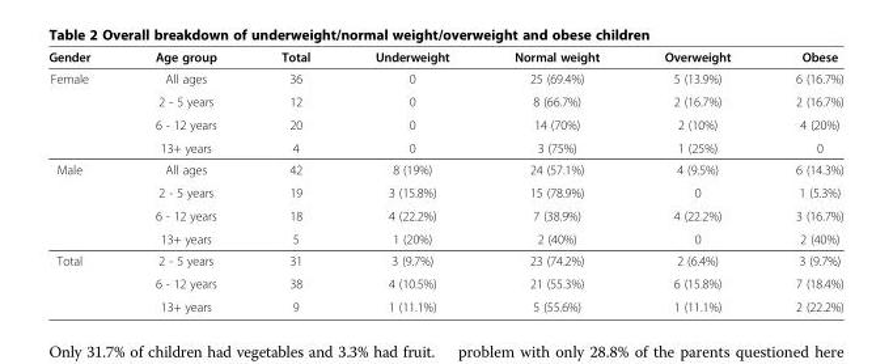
<table><thead><tr><td>Gender</td><td>Age group</td><td>Total</td><td>Underweight</td><td>Normal weight</td><td>Overweight</td><td>Obese</td></tr></thead><tbody><tr><td rowspan="4">Female</td><td>All ages</td><td>36</td><td>0</td><td>25 (69.4%)</td><td>5 (13.9%)</td><td>6 (16.7%)</td></tr><tr><td>2 - 5 years</td><td>12</td><td>0</td><td>8 (66.7%)</td><td>2 (16.7%)</td><td>2 (16.7%)</td></tr><tr><td>6 - 12 years</td><td>20</td><td>0</td><td>14 (70%)</td><td>2 (10%)</td><td>4 (20%)</td></tr><tr><td>13+ years</td><td>4</td><td>0</td><td>3 (75%)</td><td>1 (25%)</td><td>0</td></tr><tr><td rowspan="4">Male</td><td>All ages</td><td>42</td><td>8 (19%)</td><td>24 (57.1%)</td><td>4 (9.5%)</td><td>6 (14.3%)</td></tr><tr><td>2 - 5 years</td><td>19</td><td>3 (15.8%)</td><td>15 (78.9%)</td><td>0</td><td>1 (5.3%)</td></tr><tr><td>6 - 12 years</td><td>18</td><td>4 (22.2%)</td><td>7 (38.9%)</td><td>4 (22.2%)</td><td>3 (16.7%)</td></tr><tr><td>13+ years</td><td>5</td><td>1 (20%)</td><td>2 (40%)</td><td>0</td><td>2 (40%)</td></tr><tr><td rowspan="3">Total</td><td>2 - 5 years</td><td>31</td><td>3 (9.7%)</td><td>23 (74.2%)</td><td>2 (6.4%)</td><td>3 (9.7%)</td></tr><tr><td>6 - 12 years</td><td>38</td><td>4 (10.5%)</td><td>21 (55.3%)</td><td>6 (15.8%)</td><td>7 (18.4%)</td></tr><tr><td>13+ years</td><td>9</td><td>1 (11.1%)</td><td>5 (55.6%)</td><td>1 (11.1%)</td><td>2 (22.2%)</td></tr></tbody></table>